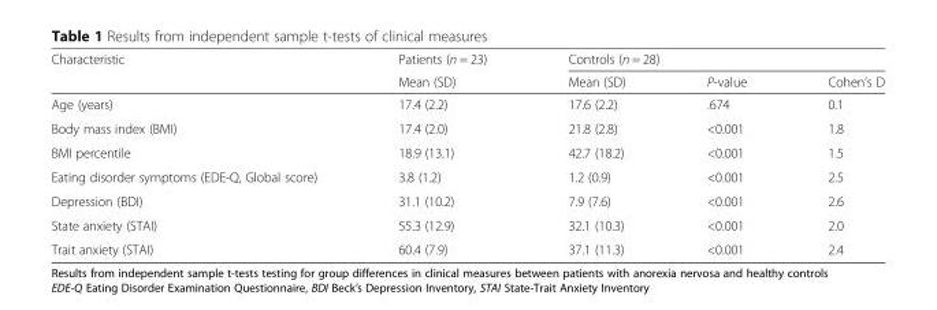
<table><thead><tr><td rowspan="2">Characteristic</td><td rowspan="2">Patients (n = 23) Mean (SD)</td><td colspan="3">Controls (n = 28)</td></tr><tr><td>Mean (SD)</td><td>P-value</td><td>Cohen’s D</td></tr></thead><tbody><tr><td>Age (years)</td><td>17.4 (2.2)</td><td>17.6 (2.2)</td><td>.674</td><td>0.1</td></tr><tr><td>Body mass index (BMI)</td><td>17.4 (2.0)</td><td>21.8 (2.8)</td><td>&lt;0.001</td><td>1.8</td></tr><tr><td>BMI percentile</td><td>18.9 (13.1)</td><td>42.7 (18.2)</td><td>&lt;0.001</td><td>1.5</td></tr><tr><td>Eating disorder symptoms (EDE-Q, Global score)</td><td>3.8 (1.2)</td><td>1.2 (0.9)</td><td>&lt;0.001</td><td>2.5</td></tr><tr><td>Depression (BDI)</td><td>31.1 (10.2)</td><td>7.9 (7.6)</td><td>&lt;0.001</td><td>2.6</td></tr><tr><td>State anxiety (STAI)</td><td>55.3 (12.9)</td><td>32.1 (10.3)</td><td>&lt;0.001</td><td>2.0</td></tr><tr><td>Trait anxiety (STAI)</td><td>60.4 (7.9)</td><td>37.1 (11.3)</td><td>&lt;0.001</td><td>2.4</td></tr></tbody></table>